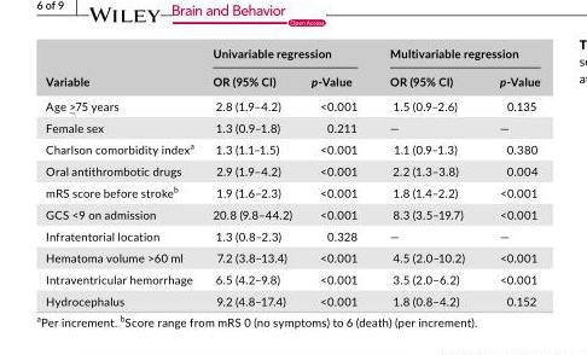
<table><thead><tr><td rowspan="2">Variable</td><td colspan="2">Univariable regression</td><td colspan="2">Multivariable regression</td></tr><tr><td>OR (95% CI)</td><td>p‐Value</td><td>OR (95% CI)</td><td>p‐Value</td></tr></thead><tbody><tr><td>Age &gt;75 years</td><td>2.8 (1.9–4.2)</td><td>&lt;0.001</td><td>1.5 (0.9–2.6)</td><td>0.135</td></tr><tr><td>Female sex</td><td>1.3 (0.9–1.8)</td><td>0.211</td><td>—</td><td>—</td></tr><tr><td>Charlson comorbidity index<sup>a</sup></td><td>1.3 (1.1–1.5)</td><td>&lt;0.001</td><td>1.1 (0.9–1.3)</td><td>0.380</td></tr><tr><td>Oral antithrombotic drugs</td><td>2.9 (1.9–4.2)</td><td>&lt;0.001</td><td>2.2 (1.3–3.8)</td><td>0.004</td></tr><tr><td>mRS score before stroke<sup>b</sup></td><td>1.9 (1.6–2.3)</td><td>&lt;0.001</td><td>1.8 (1.4–2.2)</td><td>&lt;0.001</td></tr><tr><td>GCS &lt;9 on admission</td><td>20.8 (9.8–44.2)</td><td>&lt;0.001</td><td>8.3 (3.5–19.7)</td><td>&lt;0.001</td></tr><tr><td>Infratentorial location</td><td>1.3 (0.8–2.3)</td><td>0.328</td><td>—</td><td>—</td></tr><tr><td>Hematoma volume &gt;60 ml</td><td>7.2 (3.8–13.4)</td><td>&lt;0.001</td><td>4.5 (2.0–10.2)</td><td>&lt;0.001</td></tr><tr><td>Intraventricular hemorrhage</td><td>6.5 (4.2–9.8)</td><td>&lt;0.001</td><td>3.5 (2.0–6.2)</td><td>&lt;0.001</td></tr><tr><td>Hydrocephalus</td><td>9.2 (4.8–17.4)</td><td>&lt;0.001</td><td>1.8 (0.8–4.2)</td><td>0.152</td></tr></tbody></table>